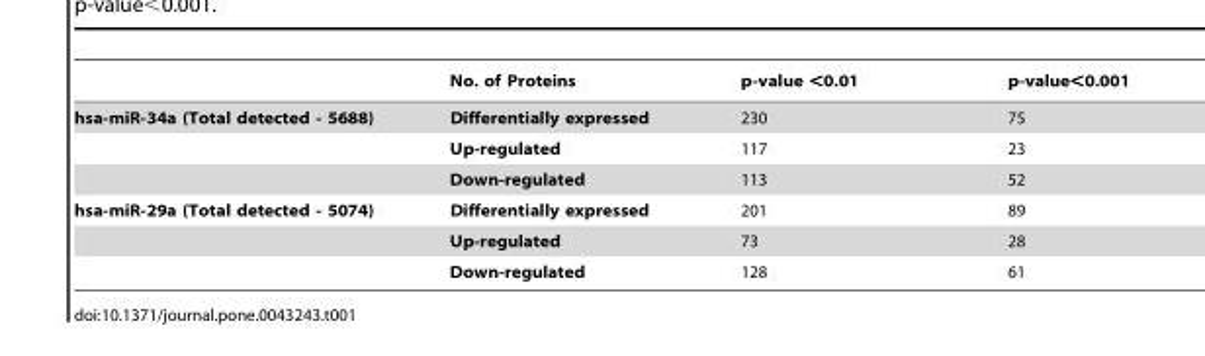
<table><thead><tr><td></td><td>No. of Proteins</td><td>p-value &lt;0.01</td><td>p-value&lt;0.001</td></tr></thead><tbody><tr><td rowspan="3">hsa-miR-34a (Total detected - 5688)</td><td>Differentially expressed</td><td>230</td><td>75</td></tr><tr><td>Up-regulated</td><td>117</td><td>23</td></tr><tr><td>Down-regulated</td><td>113</td><td>52</td></tr><tr><td rowspan="3">hsa-miR-29a (Total detected - 5074)</td><td>Differentially expressed</td><td>201</td><td>89</td></tr><tr><td>Up-regulated</td><td>73</td><td>28</td></tr><tr><td>Down-regulated</td><td>128</td><td>61</td></tr></tbody></table>